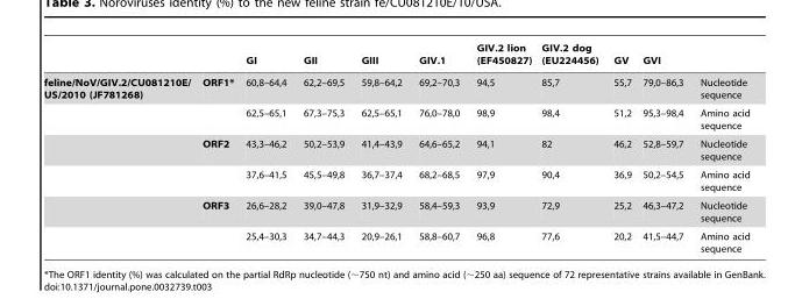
<table><thead><tr><td></td><td></td><td>GI</td><td>GII</td><td>GIII</td><td>GIV.1</td><td>GIV.2 lion (EF450827)</td><td>GIV.2 dog (EU224456)</td><td>GV</td><td>GVI</td><td></td></tr></thead><tbody><tr><td rowspan="6">feline/NoV/GIV.2/CU081210E/ US/2010 (JF781268)</td><td>ORF1*</td><td>60,8–64,4</td><td>62,2–69,5</td><td>59,8–64,2</td><td>69,2–70,3</td><td>94,5</td><td>85,7</td><td>55,7</td><td>79,0–86,3</td><td>Nucleotide sequence</td></tr><tr><td></td><td>62,5–65,1</td><td>67,3–75,3</td><td>62,5–65,1</td><td>76,0–78,0</td><td>98,9</td><td>98,4</td><td>51,2</td><td>95,3–98,4</td><td>Amino acid sequence</td></tr><tr><td>ORF2</td><td>43,3–46,2</td><td>50,2–53,9</td><td>41,4–43,9</td><td>64,6–65,2</td><td>94,1</td><td>82</td><td>46,2</td><td>52,8–59,7</td><td>Nucleotide sequence</td></tr><tr><td></td><td>37,6–41,5</td><td>45,5–49,8</td><td>36,7–37,4</td><td>68,2–68,5</td><td>97,9</td><td>90,4</td><td>36,9</td><td>50,2–54,5</td><td>Amino acid sequence</td></tr><tr><td>ORF3</td><td>26,6–28,2</td><td>39,0–47,8</td><td>31,9–32,9</td><td>58,4–59,3</td><td>93,9</td><td>72,9</td><td>25,2</td><td>46,3–47,2</td><td>Nucleotide sequence</td></tr><tr><td></td><td>25,4–30,3</td><td>34,7–44,3</td><td>20,9–26,1</td><td>58,8–60,7</td><td>96,8</td><td>77,6</td><td>20,2</td><td>41,5–44,7</td><td>Amino acid sequence</td></tr></tbody></table>